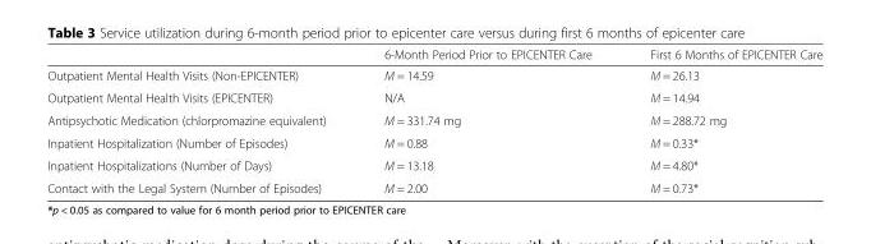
<table><thead><tr><td></td><td>6-Month Period Prior to EPICENTER Care</td><td>First 6 Months of EPICENTER Care</td></tr></thead><tbody><tr><td>Outpatient Mental Health Visits (Non-EPICENTER)</td><td>M = 14.59</td><td>M = 26.13</td></tr><tr><td>Outpatient Mental Health Visits (EPICENTER)</td><td>N/A</td><td>M = 14.94</td></tr><tr><td>Antipsychotic Medication (chlorpromazine equivalent)</td><td>M = 331.74 mg</td><td>M = 288.72 mg</td></tr><tr><td>Inpatient Hospitalization (Number of Episodes)</td><td>M = 0.88</td><td>M = 0.33*</td></tr><tr><td>Inpatient Hospitalizations (Number of Days)</td><td>M = 13.18</td><td>M = 4.80*</td></tr><tr><td>Contact with the Legal System (Number of Episodes)</td><td>M = 2.00</td><td>M = 0.73*</td></tr></tbody></table>